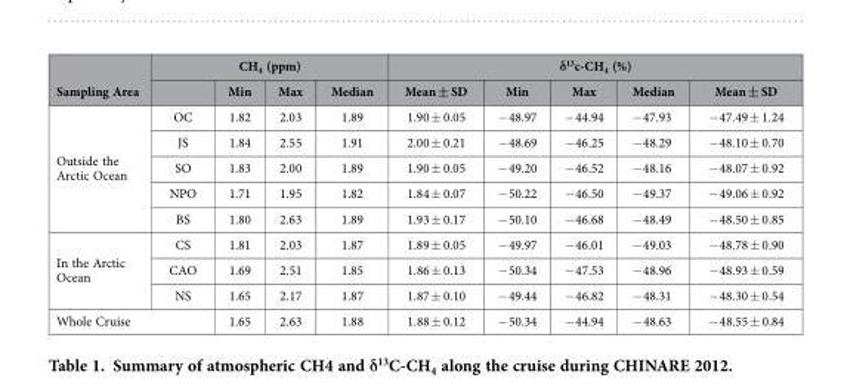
<table><thead><tr><td rowspan="2">Sampling Area</td><td colspan="4">CH<sub>4</sub> (ppm)</td><td colspan="5">δ<sup>13</sup>c-CH<sub>4</sub> (%)</td></tr><tr><td></td><td>Min</td><td>Max</td><td>Median</td><td>Mean ± SD</td><td>Min</td><td>Max</td><td>Median</td><td>Mean ± SD</td></tr></thead><tbody><tr><td rowspan="5">Outside the Arctic Ocean</td><td>OC</td><td>1.82</td><td>2.03</td><td>1.89</td><td>1.90 ± 0.05</td><td>− 48.97</td><td>− 44.94</td><td>− 47.93</td><td>− 47.49 ± 1.24</td></tr><tr><td>JS</td><td>1.84</td><td>2.55</td><td>1.91</td><td>2.00 ± 0.21</td><td>− 48.69</td><td>− 46.25</td><td>− 48.29</td><td>− 48.10 ± 0.70</td></tr><tr><td>SO</td><td>1.83</td><td>2.00</td><td>1.89</td><td>1.90 ± 0.05</td><td>− 49.20</td><td>− 46.52</td><td>− 48.16</td><td>− 48.07 ± 0.92</td></tr><tr><td>NPO</td><td>1.71</td><td>1.95</td><td>1.82</td><td>1.84 ± 0.07</td><td>− 50.22</td><td>− 46.50</td><td>− 49.37</td><td>− 49.06 ± 0.92</td></tr><tr><td>BS</td><td>1.80</td><td>2.63</td><td>1.89</td><td>1.93 ± 0.17</td><td>− 50.10</td><td>− 46.68</td><td>− 48.49</td><td>− 48.50 ± 0.85</td></tr><tr><td rowspan="3">In the Arctic Ocean</td><td>CS</td><td>1.81</td><td>2.03</td><td>1.87</td><td>1.89 ± 0.05</td><td>− 49.97</td><td>− 46.01</td><td>− 49.03</td><td>− 48.78 ± 0.90</td></tr><tr><td>CAO</td><td>1.69</td><td>2.51</td><td>1.85</td><td>1.86 ± 0.13</td><td>− 50.34</td><td>− 47.53</td><td>− 48.96</td><td>− 48.93 ± 0.59</td></tr><tr><td>NS</td><td>1.65</td><td>2.17</td><td>1.87</td><td>1.87 ± 0.10</td><td>− 49.44</td><td>− 46.82</td><td>− 48.31</td><td>− 48.30 ± 0.54</td></tr><tr><td colspan="2">Whole Cruise</td><td>1.65</td><td>2.63</td><td>1.88</td><td>1.88 ± 0.12</td><td>− 50.34</td><td>− 44.94</td><td>− 48.63</td><td>− 48.55 ± 0.84</td></tr></tbody></table>